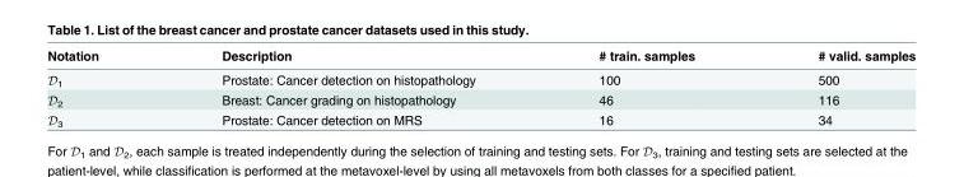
<table><thead><tr><td>Notation</td><td>Description</td><td># train. samples</td><td># valid. samples</td></tr></thead><tbody><tr><td>D<sub>1</sub></td><td>Prostate: Cancer detection on histopathology</td><td>100</td><td>500</td></tr><tr><td>D<sub>2</sub></td><td>Breast: Cancer grading on histopathology</td><td>46</td><td>116</td></tr><tr><td>D<sub>3</sub></td><td>Prostate: Cancer detection on MRS</td><td>16</td><td>34</td></tr></tbody></table>